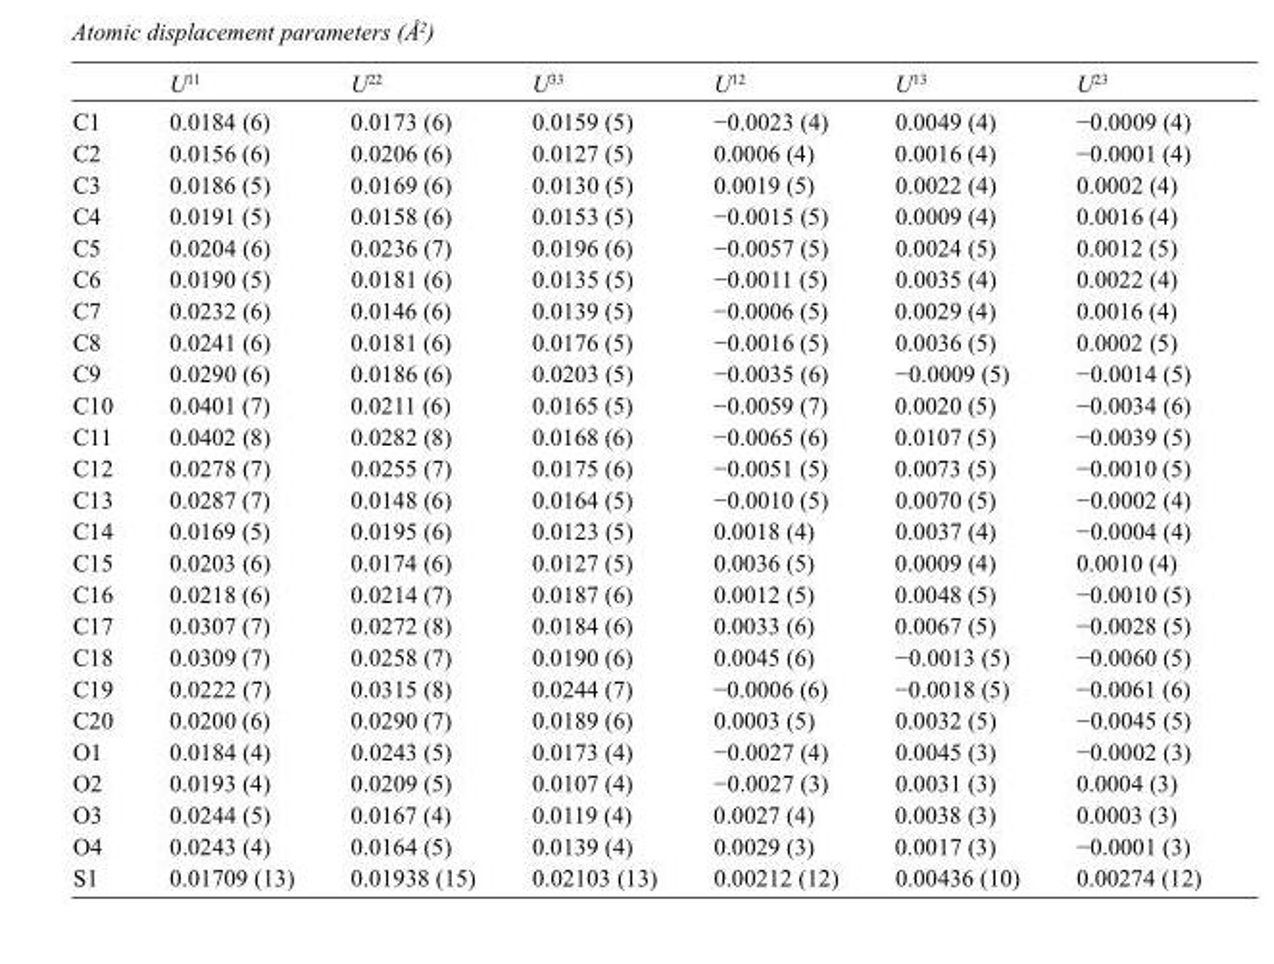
<table><thead><tr><td></td><td>U<sup>11</sup></td><td>U<sup>22</sup></td><td>U<sup>33</sup></td><td>U<sup>12</sup></td><td>U<sup>13</sup></td><td>U<sup>23</sup></td></tr></thead><tbody><tr><td>C1</td><td>0.0184 (6)</td><td>0.0173 (6)</td><td>0.0159 (5)</td><td>−0.0023 (4)</td><td>0.0049 (4)</td><td>−0.0009 (4)</td></tr><tr><td>C2</td><td>0.0156 (6)</td><td>0.0206 (6)</td><td>0.0127 (5)</td><td>0.0006 (4)</td><td>0.0016 (4)</td><td>−0.0001 (4)</td></tr><tr><td>C3</td><td>0.0186 (5)</td><td>0.0169 (6)</td><td>0.0130 (5)</td><td>0.0019 (5)</td><td>0.0022 (4)</td><td>0.0002 (4)</td></tr><tr><td>C4</td><td>0.0191 (5)</td><td>0.0158 (6)</td><td>0.0153 (5)</td><td>−0.0015 (5)</td><td>0.0009 (4)</td><td>0.0016 (4)</td></tr><tr><td>C5</td><td>0.0204 (6)</td><td>0.0236 (7)</td><td>0.0196 (6)</td><td>−0.0057 (5)</td><td>0.0024 (5)</td><td>0.0012 (5)</td></tr><tr><td>C6</td><td>0.0190 (5)</td><td>0.0181 (6)</td><td>0.0135 (5)</td><td>−0.0011 (5)</td><td>0.0035 (4)</td><td>0.0022 (4)</td></tr><tr><td>C7</td><td>0.0232 (6)</td><td>0.0146 (6)</td><td>0.0139 (5)</td><td>−0.0006 (5)</td><td>0.0029 (4)</td><td>0.0016 (4)</td></tr><tr><td>C8</td><td>0.0241 (6)</td><td>0.0181 (6)</td><td>0.0176 (5)</td><td>−0.0016 (5)</td><td>0.0036 (5)</td><td>0.0002 (5)</td></tr><tr><td>C9</td><td>0.0290 (6)</td><td>0.0186 (6)</td><td>0.0203 (5)</td><td>−0.0035 (6)</td><td>−0.0009 (5)</td><td>−0.0014 (5)</td></tr><tr><td>C10</td><td>0.0401 (7)</td><td>0.0211 (6)</td><td>0.0165 (5)</td><td>−0.0059 (7)</td><td>0.0020 (5)</td><td>−0.0034 (6)</td></tr><tr><td>C11</td><td>0.0402 (8)</td><td>0.0282 (8)</td><td>0.0168 (6)</td><td>−0.0065 (6)</td><td>0.0107 (5)</td><td>−0.0039 (5)</td></tr><tr><td>C12</td><td>0.0278 (7)</td><td>0.0255 (7)</td><td>0.0175 (6)</td><td>−0.0051 (5)</td><td>0.0073 (5)</td><td>−0.0010 (5)</td></tr><tr><td>C13</td><td>0.0287 (7)</td><td>0.0148 (6)</td><td>0.0164 (5)</td><td>−0.0010 (5)</td><td>0.0070 (5)</td><td>−0.0002 (4)</td></tr><tr><td>C14</td><td>0.0169 (5)</td><td>0.0195 (6)</td><td>0.0123 (5)</td><td>0.0018 (4)</td><td>0.0037 (4)</td><td>−0.0004 (4)</td></tr><tr><td>C15</td><td>0.0203 (6)</td><td>0.0174 (6)</td><td>0.0127 (5)</td><td>0.0036 (5)</td><td>0.0009 (4)</td><td>0.0010 (4)</td></tr><tr><td>C16</td><td>0.0218 (6)</td><td>0.0214 (7)</td><td>0.0187 (6)</td><td>0.0012 (5)</td><td>0.0048 (5)</td><td>−0.0010 (5)</td></tr><tr><td>C17</td><td>0.0307 (7)</td><td>0.0272 (8)</td><td>0.0184 (6)</td><td>0.0033 (6)</td><td>0.0067 (5)</td><td>−0.0028 (5)</td></tr><tr><td>C18</td><td>0.0309 (7)</td><td>0.0258 (7)</td><td>0.0190 (6)</td><td>0.0045 (6)</td><td>−0.0013 (5)</td><td>−0.0060 (5)</td></tr><tr><td>C19</td><td>0.0222 (7)</td><td>0.0315 (8)</td><td>0.0244 (7)</td><td>−0.0006 (6)</td><td>−0.0018 (5)</td><td>−0.0061 (6)</td></tr><tr><td>C20</td><td>0.0200 (6)</td><td>0.0290 (7)</td><td>0.0189 (6)</td><td>0.0003 (5)</td><td>0.0032 (5)</td><td>−0.0045 (5)</td></tr><tr><td>O1</td><td>0.0184 (4)</td><td>0.0243 (5)</td><td>0.0173 (4)</td><td>−0.0027 (4)</td><td>0.0045 (3)</td><td>−0.0002 (3)</td></tr><tr><td>O2</td><td>0.0193 (4)</td><td>0.0209 (5)</td><td>0.0107 (4)</td><td>−0.0027 (3)</td><td>0.0031 (3)</td><td>0.0004 (3)</td></tr><tr><td>O3</td><td>0.0244 (5)</td><td>0.0167 (4)</td><td>0.0119 (4)</td><td>0.0027 (4)</td><td>0.0038 (3)</td><td>0.0003 (3)</td></tr><tr><td>O4</td><td>0.0243 (4)</td><td>0.0164 (5)</td><td>0.0139 (4)</td><td>0.0029 (3)</td><td>0.0017 (3)</td><td>−0.0001 (3)</td></tr><tr><td>S1</td><td>0.01709 (13)</td><td>0.01938 (15)</td><td>0.02103 (13)</td><td>0.00212 (12)</td><td>0.00436 (10)</td><td>0.00274 (12)</td></tr></tbody></table>